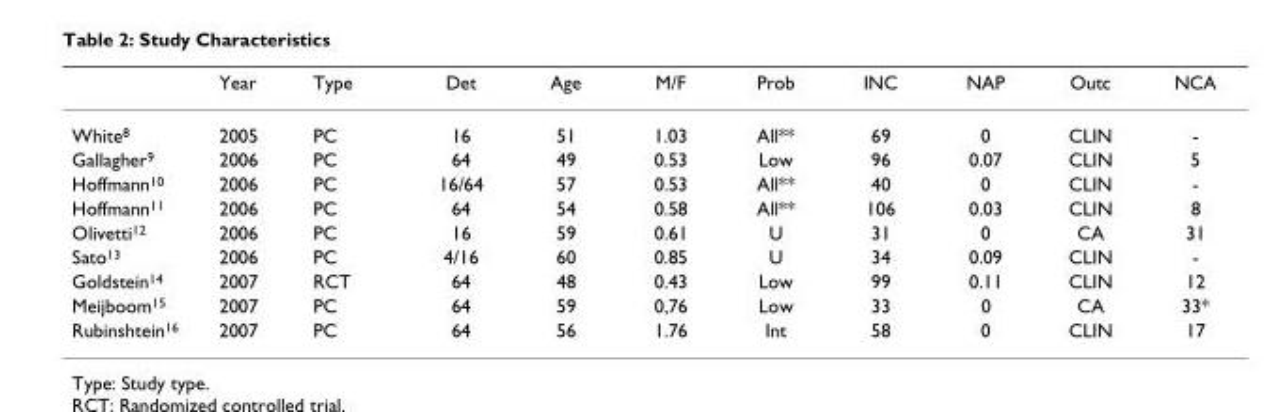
<table><thead><tr><td></td><td>Year</td><td>Type</td><td>Det</td><td>Age</td><td>M/F</td><td>Prob</td><td>INC</td><td>NAP</td><td>Outc</td><td>NCA</td></tr></thead><tbody><tr><td>White<sup>8</sup></td><td>2005</td><td>PC</td><td>16</td><td>51</td><td>1.03</td><td>All**</td><td>69</td><td>0</td><td>CLIN</td><td>-</td></tr><tr><td>Gallagher<sup>9</sup></td><td>2006</td><td>PC</td><td>64</td><td>49</td><td>0.53</td><td>Low</td><td>96</td><td>0.07</td><td>CLIN</td><td>5</td></tr><tr><td>Hoffmann<sup>10</sup></td><td>2006</td><td>PC</td><td>16/64</td><td>57</td><td>0.53</td><td>All**</td><td>40</td><td>0</td><td>CLIN</td><td>-</td></tr><tr><td>Hoffmann<sup>11</sup></td><td>2006</td><td>PC</td><td>64</td><td>54</td><td>0.58</td><td>All**</td><td>106</td><td>0.03</td><td>CLIN</td><td>8</td></tr><tr><td>Olivetti<sup>12</sup></td><td>2006</td><td>PC</td><td>16</td><td>59</td><td>0.61</td><td>U</td><td>31</td><td>0</td><td>CA</td><td>31</td></tr><tr><td>Sato<sup>13</sup></td><td>2006</td><td>PC</td><td>4/16</td><td>60</td><td>0.85</td><td>U</td><td>34</td><td>0.09</td><td>CLIN</td><td>-</td></tr><tr><td>Goldstein<sup>14</sup></td><td>2007</td><td>RCT</td><td>64</td><td>48</td><td>0.43</td><td>Low</td><td>99</td><td>0.11</td><td>CLIN</td><td>12</td></tr><tr><td>Meijboom<sup>15</sup></td><td>2007</td><td>PC</td><td>64</td><td>59</td><td>0,76</td><td>Low</td><td>33</td><td>0</td><td>CA</td><td>33*</td></tr><tr><td>Rubinshtein<sup>16</sup></td><td>2007</td><td>PC</td><td>64</td><td>56</td><td>1.76</td><td>Int</td><td>58</td><td>0</td><td>CLIN</td><td>17</td></tr></tbody></table>